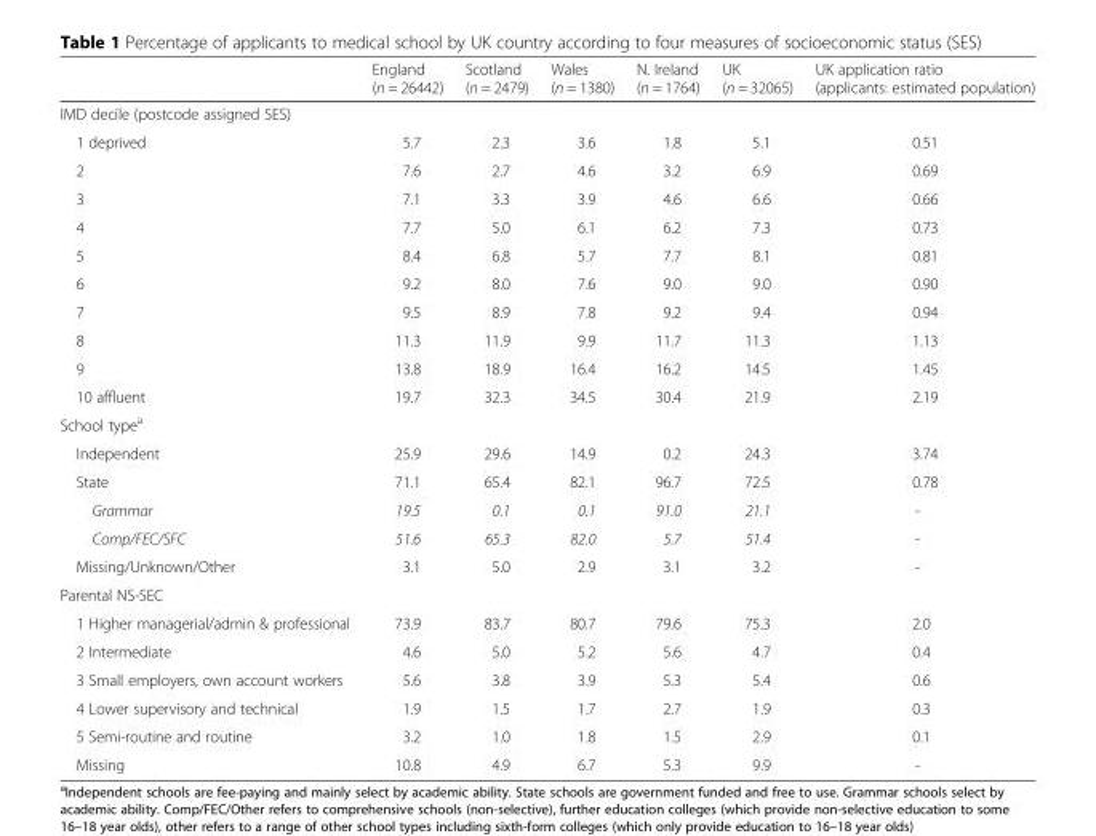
<table><thead><tr><td></td><td>England (n = 26442)</td><td>Scotland (n = 2479)</td><td>Wales (n = 1380)</td><td>N. Ireland (n = 1764)</td><td>UK (n = 32065)</td><td>UK application ratio (applicants: estimated population)</td></tr></thead><tbody><tr><td colspan="7">IMD decile (postcode assigned SES)</td></tr><tr><td>1 deprived</td><td>5.7</td><td>2.3</td><td>3.6</td><td>1.8</td><td>5.1</td><td>0.51</td></tr><tr><td>2</td><td>7.6</td><td>2.7</td><td>4.6</td><td>3.2</td><td>6.9</td><td>0.69</td></tr><tr><td>3</td><td>7.1</td><td>3.3</td><td>3.9</td><td>4.6</td><td>6.6</td><td>0.66</td></tr><tr><td>4</td><td>7.7</td><td>5.0</td><td>6.1</td><td>6.2</td><td>7.3</td><td>0.73</td></tr><tr><td>5</td><td>8.4</td><td>6.8</td><td>5.7</td><td>7.7</td><td>8.1</td><td>0.81</td></tr><tr><td>6</td><td>9.2</td><td>8.0</td><td>7.6</td><td>9.0</td><td>9.0</td><td>0.90</td></tr><tr><td>7</td><td>9.5</td><td>8.9</td><td>7.8</td><td>9.2</td><td>9.4</td><td>0.94</td></tr><tr><td>8</td><td>11.3</td><td>11.9</td><td>9.9</td><td>11.7</td><td>11.3</td><td>1.13</td></tr><tr><td>9</td><td>13.8</td><td>18.9</td><td>16.4</td><td>16.2</td><td>14.5</td><td>1.45</td></tr><tr><td>10 affluent</td><td>19.7</td><td>32.3</td><td>34.5</td><td>30.4</td><td>21.9</td><td>2.19</td></tr><tr><td colspan="7">School type<sup>a</sup></td></tr><tr><td>Independent</td><td>25.9</td><td>29.6</td><td>14.9</td><td>0.2</td><td>24.3</td><td>3.74</td></tr><tr><td>State</td><td>71.1</td><td>65.4</td><td>82.1</td><td>96.7</td><td>72.5</td><td>0.78</td></tr><tr><td>Grammar</td><td>19.5</td><td>0.1</td><td>0.1</td><td>91.0</td><td>21.1</td><td>-</td></tr><tr><td>Comp/FEC/SFC</td><td>51.6</td><td>65.3</td><td>82.0</td><td>5.7</td><td>51.4</td><td>-</td></tr><tr><td>Missing/Unknown/Other</td><td>3.1</td><td>5.0</td><td>2.9</td><td>3.1</td><td>3.2</td><td>-</td></tr><tr><td colspan="7">Parental NS-SEC</td></tr><tr><td>1 Higher managerial/admin &amp; professional</td><td>73.9</td><td>83.7</td><td>80.7</td><td>79.6</td><td>75.3</td><td>2.0</td></tr><tr><td>2 Intermediate</td><td>4.6</td><td>5.0</td><td>5.2</td><td>5.6</td><td>4.7</td><td>0.4</td></tr><tr><td>3 Small employers, own account workers</td><td>5.6</td><td>3.8</td><td>3.9</td><td>5.3</td><td>5.4</td><td>0.6</td></tr><tr><td>4 Lower supervisory and technical</td><td>1.9</td><td>1.5</td><td>1.7</td><td>2.7</td><td>1.9</td><td>0.3</td></tr><tr><td>5 Semi-routine and routine</td><td>3.2</td><td>1.0</td><td>1.8</td><td>1.5</td><td>2.9</td><td>0.1</td></tr><tr><td>Missing</td><td>10.8</td><td>4.9</td><td>6.7</td><td>5.3</td><td>9.9</td><td>-</td></tr></tbody></table>